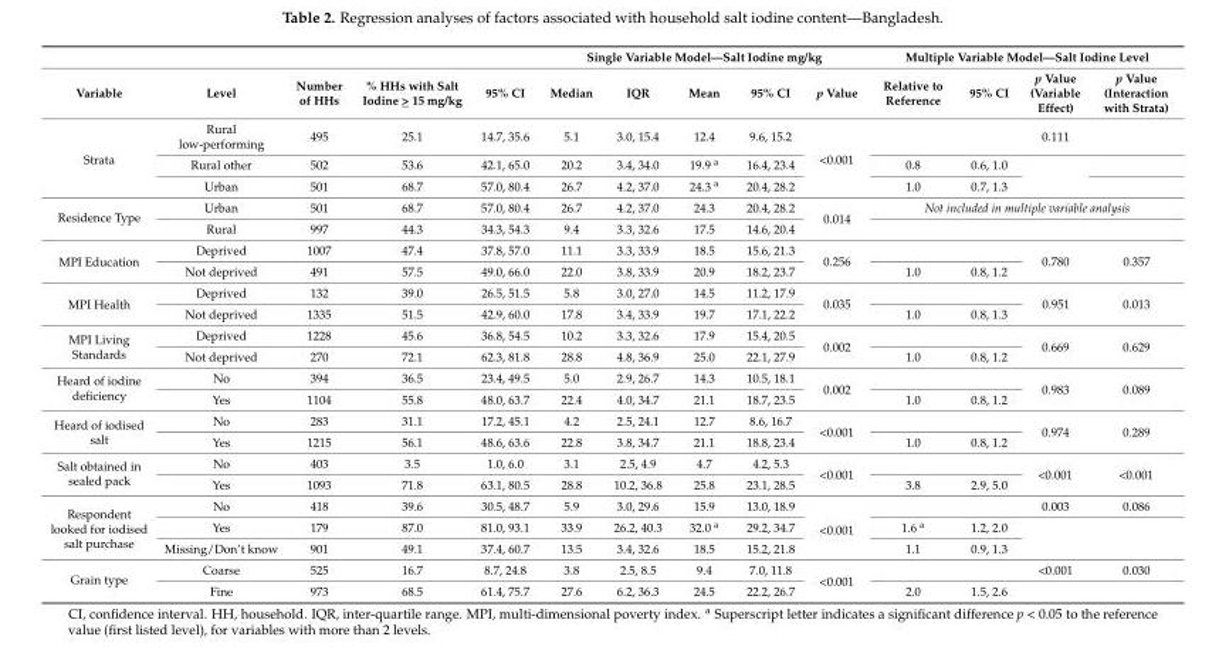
<table><thead><tr><td rowspan="2">Variable</td><td rowspan="2">Level</td><td rowspan="2">Number of HHs</td><td rowspan="2">% HHs with Salt Iodine &gt; 15 mg/kg</td><td rowspan="2">95% CI</td><td colspan="5">Single Variable Model—Salt Iodine mg/kg</td><td colspan="4">Multiple Variable Model—Salt Iodine Level</td></tr><tr><td>Median</td><td>IQR</td><td>Mean</td><td>95% CI</td><td>p Value</td><td>Relative to Reference</td><td>95% CI</td><td>p Value (Variable Effect)</td><td>p Value (Interaction with Strata)</td></tr></thead><tbody><tr><td rowspan="3">Strata</td><td>Rural low-performing</td><td>495</td><td>25.1</td><td>14.7, 35.6</td><td>5.1</td><td>3.0, 15.4</td><td>12.4</td><td>9.6, 15.2</td><td rowspan="3">&lt;0.001</td><td></td><td></td><td>0.111</td><td></td></tr><tr><td>Rural other</td><td>502</td><td>53.6</td><td>42.1, 65.0</td><td>20.2</td><td>3.4, 34.0</td><td>19.9 <sup>a</sup></td><td>16.4, 23.4</td><td>0.8</td><td>0.6, 1.0</td><td rowspan="2"></td><td></td></tr><tr><td>Urban</td><td>501</td><td>68.7</td><td>57.0, 80.4</td><td>26.7</td><td>4.2, 37.0</td><td>24.3 <sup>a</sup></td><td>20.4, 28.2</td><td>1.0</td><td>0.7, 1.3</td><td></td></tr><tr><td rowspan="2">Residence Type</td><td>Urban</td><td>501</td><td>68.7</td><td>57.0, 80.4</td><td>26.7</td><td>4.2, 37.0</td><td>24.3</td><td>20.4, 28.2</td><td rowspan="2">0.014</td><td colspan="4">Not included in multiple variable analysis</td></tr><tr><td>Rural</td><td>997</td><td>44.3</td><td>34.3, 54.3</td><td>9.4</td><td>3.3, 32.6</td><td>17.5</td><td>14.6, 20.4</td><td></td><td></td><td></td><td></td></tr><tr><td rowspan="2">MPI Education</td><td>Deprived</td><td>1007</td><td>47.4</td><td>37.8, 57.0</td><td>11.1</td><td>3.3, 33.9</td><td>18.5</td><td>15.6, 21.3</td><td rowspan="2">0.256</td><td></td><td></td><td rowspan="2">0.780</td><td rowspan="2">0.357</td></tr><tr><td>Not deprived</td><td>491</td><td>57.5</td><td>49.0, 66.0</td><td>22.0</td><td>3.8, 33.9</td><td>20.9</td><td>18.2, 23.7</td><td>1.0</td><td>0.8, 1.2</td></tr><tr><td rowspan="2">MPI Health</td><td>Deprived</td><td>132</td><td>39.0</td><td>26.5, 51.5</td><td>5.8</td><td>3.0, 27.0</td><td>14.5</td><td>11.2, 17.9</td><td rowspan="2">0.035</td><td></td><td></td><td rowspan="2">0.951</td><td rowspan="2">0.013</td></tr><tr><td>Not deprived</td><td>1335</td><td>51.5</td><td>42.9, 60.0</td><td>17.8</td><td>3.4, 33.9</td><td>19.7</td><td>17.1, 22.2</td><td>1.0</td><td>0.8, 1.3</td></tr><tr><td rowspan="2">MPI Living Standards</td><td>Deprived</td><td>1228</td><td>45.6</td><td>36.8, 54.5</td><td>10.2</td><td>3.3, 32.6</td><td>17.9</td><td>15.4, 20.5</td><td rowspan="2">0.002</td><td></td><td></td><td rowspan="2">0.669</td><td rowspan="2">0.629</td></tr><tr><td>Not deprived</td><td>270</td><td>72.1</td><td>62.3, 81.8</td><td>28.8</td><td>4.8, 36.9</td><td>25.0</td><td>22.1, 27.9</td><td>1.0</td><td>0.8, 1.2</td></tr><tr><td rowspan="2">Heard of iodine deficiency</td><td>No</td><td>394</td><td>36.5</td><td>23.4, 49.5</td><td>5.0</td><td>2.9, 26.7</td><td>14.3</td><td>10.5, 18.1</td><td rowspan="2">0.002</td><td></td><td></td><td rowspan="2">0.983</td><td rowspan="2">0.089</td></tr><tr><td>Yes</td><td>1104</td><td>55.8</td><td>48.0, 63.7</td><td>22.4</td><td>4.0, 34.7</td><td>21.1</td><td>18.7, 23.5</td><td>1.0</td><td>0.8, 1.2</td></tr><tr><td rowspan="2">Heard of iodised salt</td><td>No</td><td>283</td><td>31.1</td><td>17.2, 45.1</td><td>4.2</td><td>2.5, 24.1</td><td>12.7</td><td>8.6, 16.7</td><td rowspan="2">&lt;0.001</td><td></td><td></td><td rowspan="2">0.974</td><td rowspan="2">0.289</td></tr><tr><td>Yes</td><td>1215</td><td>56.1</td><td>48.6, 63.6</td><td>22.8</td><td>3.8, 34.7</td><td>21.1</td><td>18.8, 23.4</td><td>1.0</td><td>0.8, 1.2</td></tr><tr><td rowspan="2">Salt obtained in sealed pack</td><td>No</td><td>403</td><td>3.5</td><td>1.0, 6.0</td><td>3.1</td><td>2.5, 4.9</td><td>4.7</td><td>4.2, 5.3</td><td rowspan="2">&lt;0.001</td><td></td><td></td><td rowspan="2">&lt;0.001</td><td rowspan="2">&lt;0.001</td></tr><tr><td>Yes</td><td>1093</td><td>71.8</td><td>63.1, 80.5</td><td>28.8</td><td>10.2, 36.8</td><td>25.8</td><td>23.1, 28.5</td><td>3.8</td><td>2.9, 5.0</td></tr><tr><td rowspan="3">Respondent looked for iodised salt purchase</td><td>No</td><td>418</td><td>39.6</td><td>30.5, 48.7</td><td>5.9</td><td>3.0, 29.6</td><td>15.9</td><td>13.0, 18.9</td><td rowspan="3">&lt;0.001</td><td></td><td></td><td>0.003</td><td>0.086</td></tr><tr><td>Yes</td><td>179</td><td>87.0</td><td>81.0, 93.1</td><td>33.9</td><td>26.2, 40.3</td><td>32.0 <sup>a</sup></td><td>29.2, 34.7</td><td>1.6 <sup>a</sup></td><td>1.2, 2.0</td><td rowspan="2"></td><td rowspan="2"></td></tr><tr><td>Missing/Don’t know</td><td>901</td><td>49.1</td><td>37.4, 60.7</td><td>13.5</td><td>3.4, 32.6</td><td>18.5</td><td>15.2, 21.8</td><td>1.1</td><td>0.9, 1.3</td></tr><tr><td rowspan="2">Grain type</td><td>Coarse</td><td>525</td><td>16.7</td><td>8.7, 24.8</td><td>3.8</td><td>2.5, 8.5</td><td>9.4</td><td>7.0, 11.8</td><td rowspan="2">&lt;0.001</td><td></td><td></td><td>&lt;0.001</td><td>0.030</td></tr><tr><td>Fine</td><td>973</td><td>68.5</td><td>61.4, 75.7</td><td>27.6</td><td>6.2, 36.3</td><td>24.5</td><td>22.2, 26.7</td><td>2.0</td><td>1.5, 2.6</td><td></td><td></td></tr></tbody></table>